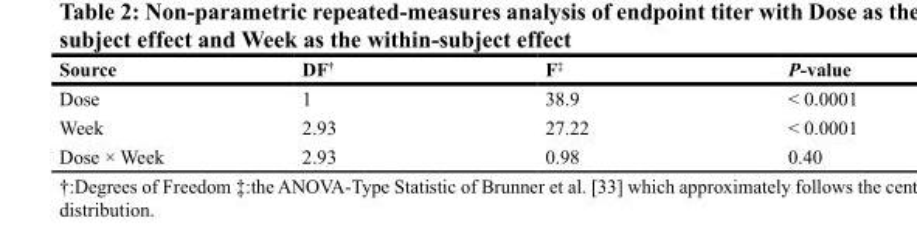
<table><thead><tr><td>Source</td><td>DF<sup>†</sup></td><td>F<sup>‡</sup></td><td>P-value</td></tr></thead><tbody><tr><td>Dose</td><td>1</td><td>38.9</td><td>&lt; 0.0001</td></tr><tr><td>Week</td><td>2.93</td><td>27.22</td><td>&lt; 0.0001</td></tr><tr><td>Dose × Week</td><td>2.93</td><td>0.98</td><td>0.40</td></tr></tbody></table>